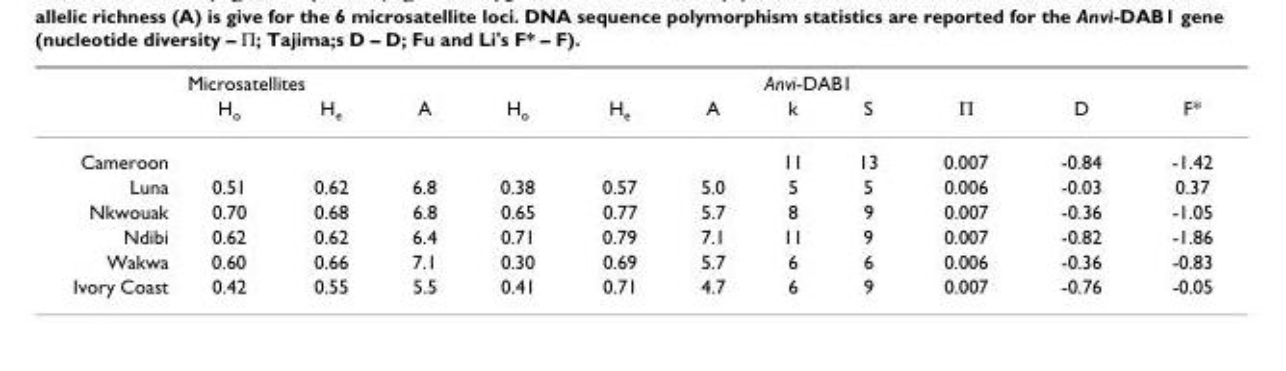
<table><thead><tr><td rowspan="2"></td><td colspan="6">Microsatellites</td><td colspan="5">Anvi-DAB1</td></tr><tr><td>H<sub>o</sub></td><td>H<sub>e</sub></td><td>A</td><td>H<sub>o</sub></td><td>H<sub>e</sub></td><td>A</td><td>k</td><td>S</td><td>Π</td><td>D</td><td>F*</td></tr></thead><tbody><tr><td>Cameroon</td><td></td><td></td><td></td><td></td><td></td><td></td><td>11</td><td>13</td><td>0.007</td><td>-0.84</td><td>-1.42</td></tr><tr><td>Luna</td><td>0.51</td><td>0.62</td><td>6.8</td><td>0.38</td><td>0.57</td><td>5.0</td><td>5</td><td>5</td><td>0.006</td><td>-0.03</td><td>0.37</td></tr><tr><td>Nkwouak</td><td>0.70</td><td>0.68</td><td>6.8</td><td>0.65</td><td>0.77</td><td>5.7</td><td>8</td><td>9</td><td>0.007</td><td>-0.36</td><td>-1.05</td></tr><tr><td>Ndibi</td><td>0.62</td><td>0.62</td><td>6.4</td><td>0.71</td><td>0.79</td><td>7.1</td><td>11</td><td>9</td><td>0.007</td><td>-0.82</td><td>-1.86</td></tr><tr><td>Wakwa</td><td>0.60</td><td>0.66</td><td>7.1</td><td>0.30</td><td>0.69</td><td>5.7</td><td>6</td><td>6</td><td>0.006</td><td>-0.36</td><td>-0.83</td></tr><tr><td>Ivory Coast</td><td>0.42</td><td>0.55</td><td>5.5</td><td>0.41</td><td>0.71</td><td>4.7</td><td>6</td><td>9</td><td>0.007</td><td>-0.76</td><td>-0.05</td></tr></tbody></table>